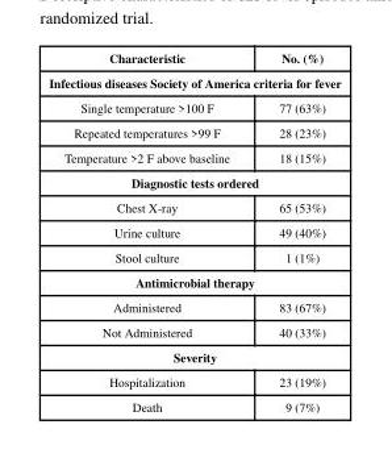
<table><thead><tr><td>Characteristic</td><td>No. (%)</td></tr></thead><tbody><tr><td colspan="2">Infectious diseases Society of America criteria for fever</td></tr><tr><td>Single temperature &gt;100 F</td><td>77 (63%)</td></tr><tr><td>Repeated temperatures &gt;99 F</td><td>28 (23%)</td></tr><tr><td>Temperature &gt;2 F above baseline</td><td>18 (15%)</td></tr><tr><td colspan="2">Diagnostic tests ordered</td></tr><tr><td>Chest X-ray</td><td>65 (53%)</td></tr><tr><td>Urine culture</td><td>49 (40%)</td></tr><tr><td>Stool culture</td><td>1 (1%)</td></tr><tr><td colspan="2">Antimicrobial therapy</td></tr><tr><td>Administered</td><td>83 (67%)</td></tr><tr><td>Not Administered</td><td>40 (33%)</td></tr><tr><td colspan="2">Severity</td></tr><tr><td>Hospitalization</td><td>23 (19%)</td></tr><tr><td>Death</td><td>9 (7%)</td></tr></tbody></table>